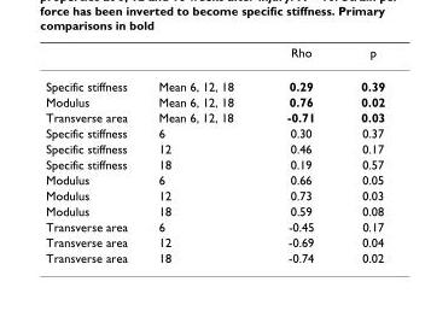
<table><thead><tr><td></td><td></td><td>Rho</td><td>p</td></tr></thead><tbody><tr><td>Specific stiffness</td><td>Mean 6, 12, 18</td><td>0.29</td><td>0.39</td></tr><tr><td>Modulus</td><td>Mean 6, 12, 18</td><td>0.76</td><td>0.02</td></tr><tr><td>Transverse area</td><td>Mean 6, 12, 18</td><td>-0.71</td><td>0.03</td></tr><tr><td>Specific stiffness</td><td>6</td><td>0.30</td><td>0.37</td></tr><tr><td>Specific stiffness</td><td>12</td><td>0.46</td><td>0.17</td></tr><tr><td>Specific stiffness</td><td>18</td><td>0.19</td><td>0.57</td></tr><tr><td>Modulus</td><td>6</td><td>0.66</td><td>0.05</td></tr><tr><td>Modulus</td><td>12</td><td>0.73</td><td>0.03</td></tr><tr><td>Modulus</td><td>18</td><td>0.59</td><td>0.08</td></tr><tr><td>Transverse area</td><td>6</td><td>-0.45</td><td>0.17</td></tr><tr><td>Transverse area</td><td>12</td><td>-0.69</td><td>0.04</td></tr><tr><td>Transverse area</td><td>18</td><td>-0.74</td><td>0.02</td></tr></tbody></table>